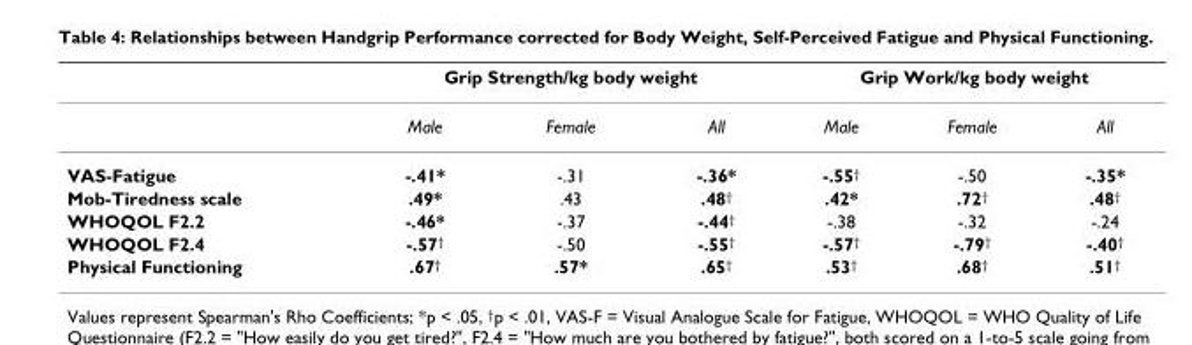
<table><thead><tr><td rowspan="2"></td><td colspan="3">Grip Strength/kg body weight</td><td colspan="3">Grip Work/kg body weight</td></tr><tr><td>Male</td><td>Female</td><td>All</td><td>Male</td><td>Female</td><td>All</td></tr></thead><tbody><tr><td>VAS-Fatigue</td><td>-.41*</td><td>-.31</td><td>-.36*</td><td>-.55†</td><td>-.50</td><td>-.35*</td></tr><tr><td>Mob-Tiredness scale</td><td>.49*</td><td>.43</td><td>.48†</td><td>.42*</td><td>.72†</td><td>.48†</td></tr><tr><td>WHOQOL F2.2</td><td>-.46*</td><td>-.37</td><td>-.44†</td><td>-.38</td><td>-.32</td><td>-.24</td></tr><tr><td>WHOQOL F2.4</td><td>-.57†</td><td>-.50</td><td>-.55†</td><td>-.57†</td><td>-.79†</td><td>-.40†</td></tr><tr><td>Physical Functioning</td><td>.67†</td><td>.57*</td><td>.65†</td><td>.53†</td><td>.68†</td><td>.51†</td></tr></tbody></table>